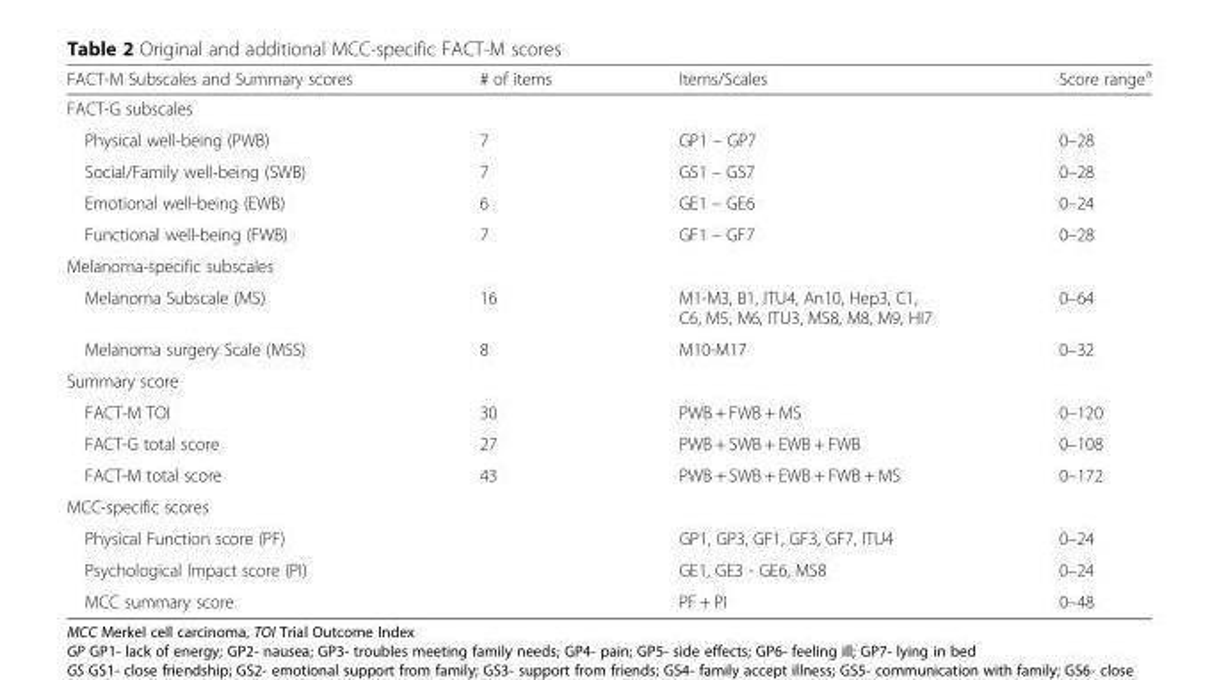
<table><thead><tr><td>FACT-M Subscales and Summary scores</td><td># of items</td><td>Items/Scales</td><td>Score range<sup>a</sup></td></tr></thead><tbody><tr><td colspan="4">FACT-G subscales</td></tr><tr><td>Physical well-being (PWB)</td><td>7</td><td>GP1 – GP7</td><td>0–28</td></tr><tr><td>Social/Family well-being (SWB)</td><td>7</td><td>GS1 – GS7</td><td>0–28</td></tr><tr><td>Emotional well-being (EWB)</td><td>6</td><td>GE1 – GE6</td><td>0–24</td></tr><tr><td>Functional well-being (FWB)</td><td>7</td><td>GF1 – GF7</td><td>0–28</td></tr><tr><td colspan="4">Melanoma-specific subscales</td></tr><tr><td>Melanoma Subscale (MS)</td><td>16</td><td>M1-M3, B1, ITU4, An10, Hep3, C1, C6, M5, M6, ITU3, MS8, M8, M9, HI7</td><td>0–64</td></tr><tr><td>Melanoma surgery Scale (MSS)</td><td>8</td><td>M10-M17</td><td>0–32</td></tr><tr><td colspan="4">Summary score</td></tr><tr><td>FACT-M TOI</td><td>30</td><td>PWB + FWB + MS</td><td>0–120</td></tr><tr><td>FACT-G total score</td><td>27</td><td>PWB + SWB + EWB + FWB</td><td>0–108</td></tr><tr><td>FACT-M total score</td><td>43</td><td>PWB + SWB + EWB + FWB + MS</td><td>0–172</td></tr><tr><td colspan="4">MCC-specific scores</td></tr><tr><td>Physical Function score (PF)</td><td></td><td>GP1, GP3, GF1, GF3, GF7, ITU4</td><td>0–24</td></tr><tr><td>Psychological Impact score (PI)</td><td></td><td>GE1, GE3 - GE6, MS8</td><td>0–24</td></tr><tr><td>MCC summary score</td><td></td><td>PF + PI</td><td>0–48</td></tr></tbody></table>